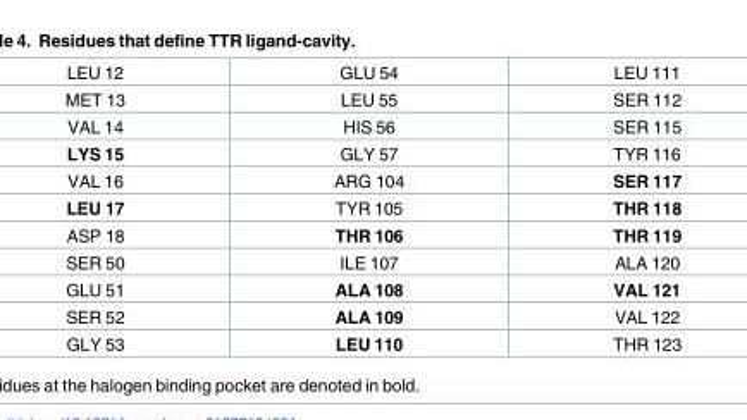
<table><tbody><tr><td>LEU 12</td><td>GLU 54</td><td>LEU 111</td></tr><tr><td>MET 13</td><td>LEU 55</td><td>SER 112</td></tr><tr><td>VAL 14</td><td>HIS 56</td><td>SER 115</td></tr><tr><td>LYS 15</td><td>GLY 57</td><td>TYR 116</td></tr><tr><td>VAL 16</td><td>ARG 104</td><td>SER 117</td></tr><tr><td>LEU 17</td><td>TYR 105</td><td>THR 118</td></tr><tr><td>ASP 18</td><td>THR 106</td><td>THR 119</td></tr><tr><td>SER 50</td><td>ILE 107</td><td>ALA 120</td></tr><tr><td>GLU 51</td><td>ALA 108</td><td>VAL 121</td></tr><tr><td>SER 52</td><td>ALA 109</td><td>VAL 122</td></tr><tr><td>GLY 53</td><td>LEU 110</td><td>THR 123</td></tr></tbody></table>